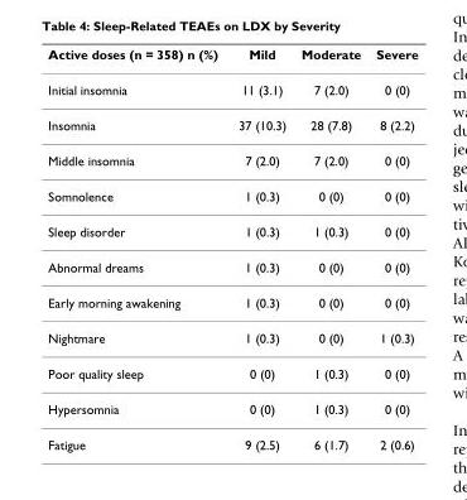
<table><thead><tr><td>Active doses (n = 358) n (%)</td><td>Mild</td><td>Moderate</td><td>Severe</td></tr></thead><tbody><tr><td>Initial insomnia</td><td>11 (3.1)</td><td>7 (2.0)</td><td>0 (0)</td></tr><tr><td>Insomnia</td><td>37 (10.3)</td><td>28 (7.8)</td><td>8 (2.2)</td></tr><tr><td>Middle insomnia</td><td>7 (2.0)</td><td>7 (2.0)</td><td>0 (0)</td></tr><tr><td>Somnolence</td><td>1 (0.3)</td><td>0 (0)</td><td>0 (0)</td></tr><tr><td>Sleep disorder</td><td>1 (0.3)</td><td>1 (0.3)</td><td>0 (0)</td></tr><tr><td>Abnormal dreams</td><td>1 (0.3)</td><td>0 (0)</td><td>0 (0)</td></tr><tr><td>Early morning awakening</td><td>1 (0.3)</td><td>0 (0)</td><td>0 (0)</td></tr><tr><td>Nightmare</td><td>1 (0.3)</td><td>0 (0)</td><td>1 (0.3)</td></tr><tr><td>Poor quality sleep</td><td>0 (0)</td><td>1 (0.3)</td><td>0 (0)</td></tr><tr><td>Hypersomnia</td><td>0 (0)</td><td>1 (0.3)</td><td>0 (0)</td></tr><tr><td>Fatigue</td><td>9 (2.5)</td><td>6 (1.7)</td><td>2 (0.6)</td></tr></tbody></table>